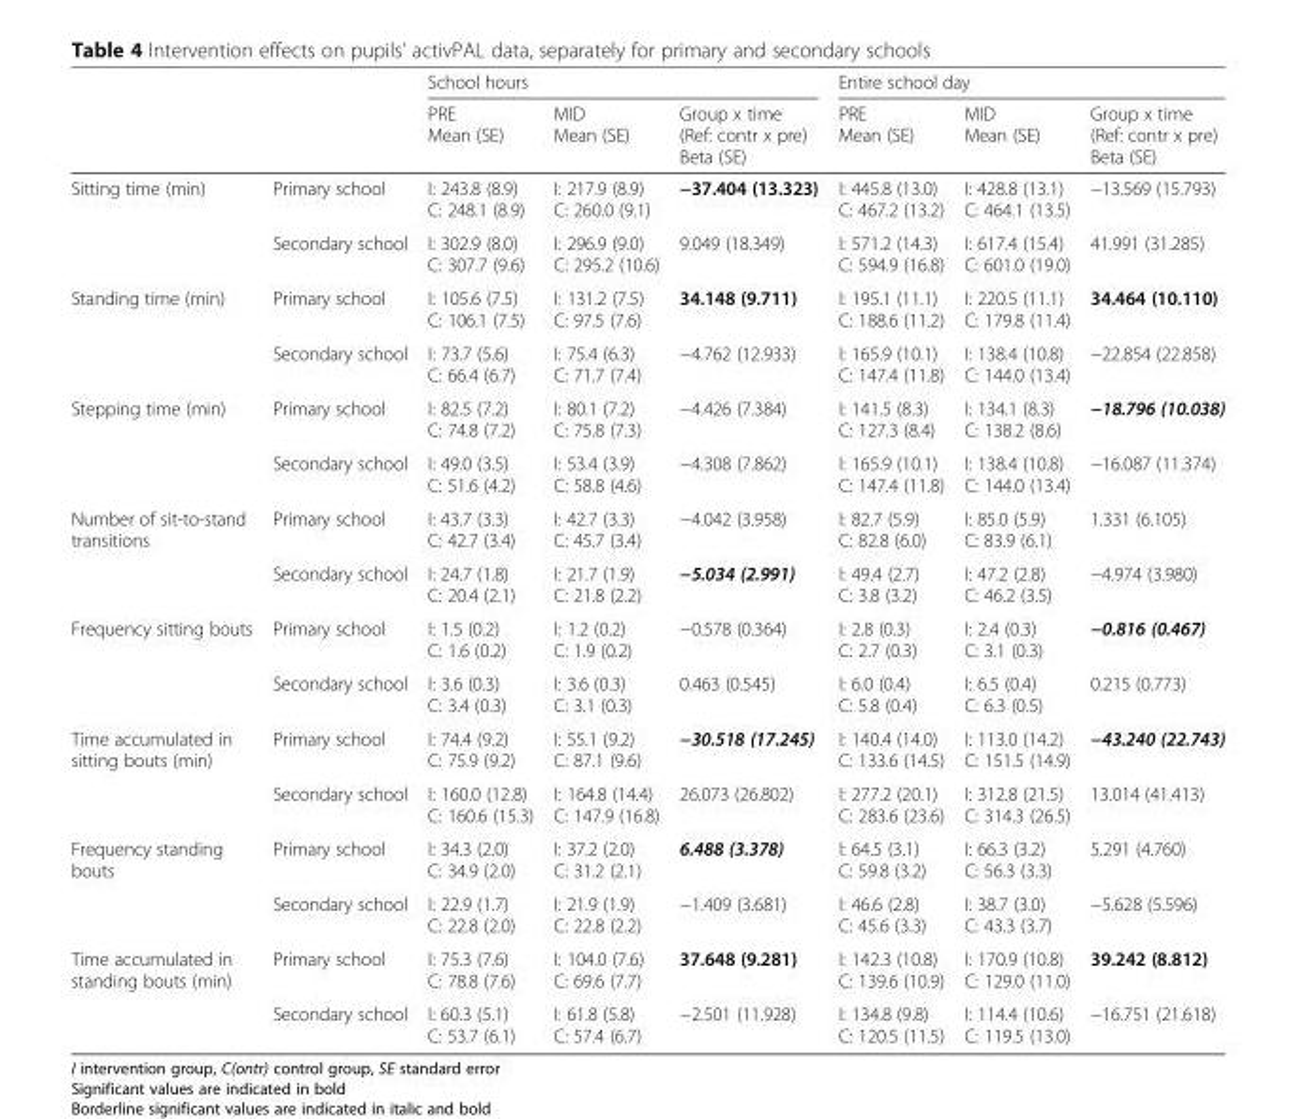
<table><thead><tr><td rowspan="2"></td><td rowspan="2"></td><td colspan="3">School hours</td><td colspan="3">Entire school day</td></tr><tr><td>PRE Mean (SE)</td><td>MID Mean (SE)</td><td>Group x time (Ref: contr x pre) Beta (SE)</td><td>PRE Mean (SE)</td><td>MID Mean (SE)</td><td>Group x time (Ref: contr x pre) Beta (SE)</td></tr></thead><tbody><tr><td rowspan="2">Sitting time (min)</td><td>Primary school</td><td>I: 243.8 (8.9) C: 248.1 (8.9)</td><td>I: 217.9 (8.9) C: 260.0 (9.1)</td><td>−37.404 (13.323)</td><td>I: 445.8 (13.0) C: 467.2 (13.2)</td><td>I: 428.8 (13.1) C: 464.1 (13.5)</td><td>−13.569 (15.793)</td></tr><tr><td>Secondary school</td><td>I: 302.9 (8.0) C: 307.7 (9.6)</td><td>I: 296.9 (9.0) C: 295.2 (10.6)</td><td>9.049 (18.349)</td><td>I: 571.2 (14.3) C: 594.9 (16.8)</td><td>I: 617.4 (15.4) C: 601.0 (19.0)</td><td>41.991 (31.285)</td></tr><tr><td rowspan="2">Standing time (min)</td><td>Primary school</td><td>I: 105.6 (7.5) C: 106.1 (7.5)</td><td>I: 131.2 (7.5) C: 97.5 (7.6)</td><td>34.148 (9.711)</td><td>I: 195.1 (11.1) C: 188.6 (11.2)</td><td>I: 220.5 (11.1) C: 179.8 (11.4)</td><td>34.464 (10.110)</td></tr><tr><td>Secondary school</td><td>I: 73.7 (5.6) C: 66.4 (6.7)</td><td>I: 75.4 (6.3) C: 71.7 (7.4)</td><td>−4.762 (12.933)</td><td>I: 165.9 (10.1) C: 147.4 (11.8)</td><td>I: 138.4 (10.8) C: 144.0 (13.4)</td><td>−22.854 (22.858)</td></tr><tr><td rowspan="2">Stepping time (min)</td><td>Primary school</td><td>I: 82.5 (7.2) C: 74.8 (7.2)</td><td>I: 80.1 (7.2) C: 75.8 (7.3)</td><td>−4.426 (7.384)</td><td>I: 141.5 (8.3) C: 127.3 (8.4)</td><td>I: 134.1 (8.3) C: 138.2 (8.6)</td><td>−18.796 (10.038)</td></tr><tr><td>Secondary school</td><td>I: 49.0 (3.5) C: 51.6 (4.2)</td><td>I: 53.4 (3.9) C: 58.8 (4.6)</td><td>−4.308 (7.862)</td><td>I: 165.9 (10.1) C: 147.4 (11.8)</td><td>I: 138.4 (10.8) C: 144.0 (13.4)</td><td>−16.087 (11.374)</td></tr><tr><td rowspan="2">Number of sit-to-stand transitions</td><td>Primary school</td><td>I: 43.7 (3.3) C: 42.7 (3.4)</td><td>I: 42.7 (3.3) C: 45.7 (3.4)</td><td>−4.042 (3.958)</td><td>I: 82.7 (5.9) C: 82.8 (6.0)</td><td>I: 85.0 (5.9) C: 83.9 (6.1)</td><td>1.331 (6.105)</td></tr><tr><td>Secondary school</td><td>I: 24.7 (1.8) C: 20.4 (2.1)</td><td>I: 21.7 (1.9) C: 21.8 (2.2)</td><td>−5.034 (2.991)</td><td>I: 49.4 (2.7) C: 3.8 (3.2)</td><td>I: 47.2 (2.8) C: 46.2 (3.5)</td><td>−4.974 (3.980)</td></tr><tr><td rowspan="2">Frequency sitting bouts</td><td>Primary school</td><td>I: 1.5 (0.2) C: 1.6 (0.2)</td><td>I: 1.2 (0.2) C: 1.9 (0.2)</td><td>−0.578 (0.364)</td><td>I: 2.8 (0.3) C: 2.7 (0.3)</td><td>I: 2.4 (0.3) C: 3.1 (0.3)</td><td>−0.816 (0.467)</td></tr><tr><td>Secondary school</td><td>I: 3.6 (0.3) C: 3.4 (0.3)</td><td>I: 3.6 (0.3) C: 3.1 (0.3)</td><td>0.463 (0.545)</td><td>I: 6.0 (0.4) C: 5.8 (0.4)</td><td>I: 6.5 (0.4) C: 6.3 (0.5)</td><td>0.215 (0.773)</td></tr><tr><td rowspan="2">Time accumulated in sitting bouts (min)</td><td>Primary school</td><td>I: 74.4 (9.2) C: 75.9 (9.2)</td><td>I: 55.1 (9.2) C: 87.1 (9.6)</td><td>−30.518 (17.245)</td><td>I: 140.4 (14.0) C: 133.6 (14.5)</td><td>I: 113.0 (14.2) C: 151.5 (14.9)</td><td>−43.240 (22.743)</td></tr><tr><td>Secondary school</td><td>I: 160.0 (12.8) C: 160.6 (15.3)</td><td>I: 164.8 (14.4) C: 147.9 (16.8)</td><td>26.073 (26.802)</td><td>I: 277.2 (20.1) C: 283.6 (23.6)</td><td>I: 312.8 (21.5) C: 314.3 (26.5)</td><td>13.014 (41.413)</td></tr><tr><td rowspan="2">Frequency standing bouts</td><td>Primary school</td><td>I: 34.3 (2.0) C: 34.9 (2.0)</td><td>I: 37.2 (2.0) C: 31.2 (2.1)</td><td>6.488 (3.378)</td><td>I: 64.5 (3.1) C: 59.8 (3.2)</td><td>I: 66.3 (3.2) C: 56.3 (3.3)</td><td>5.291 (4.760)</td></tr><tr><td>Secondary school</td><td>I: 22.9 (1.7) C: 22.8 (2.0)</td><td>I: 21.9 (1.9) C: 22.8 (2.2)</td><td>−1.409 (3.681)</td><td>I: 46.6 (2.8) C: 45.6 (3.3)</td><td>I: 38.7 (3.0) C: 43.3 (3.7)</td><td>−5.628 (5.596)</td></tr><tr><td rowspan="2">Time accumulated in standing bouts (min)</td><td>Primary school</td><td>I: 75.3 (7.6) C: 78.8 (7.6)</td><td>I: 104.0 (7.6) C: 69.6 (7.7)</td><td>37.648 (9.281)</td><td>I: 142.3 (10.8) C: 139.6 (10.9)</td><td>I: 170.9 (10.8) C: 129.0 (11.0)</td><td>39.242 (8.812)</td></tr><tr><td>Secondary school</td><td>I: 60.3 (5.1) C: 53.7 (6.1)</td><td>I: 61.8 (5.8) C: 57.4 (6.7)</td><td>−2.501 (11.928)</td><td>I: 134.8 (9.8) C: 120.5 (11.5)</td><td>I: 114.4 (10.6) C: 119.5 (13.0)</td><td>−16.751 (21.618)</td></tr></tbody></table>